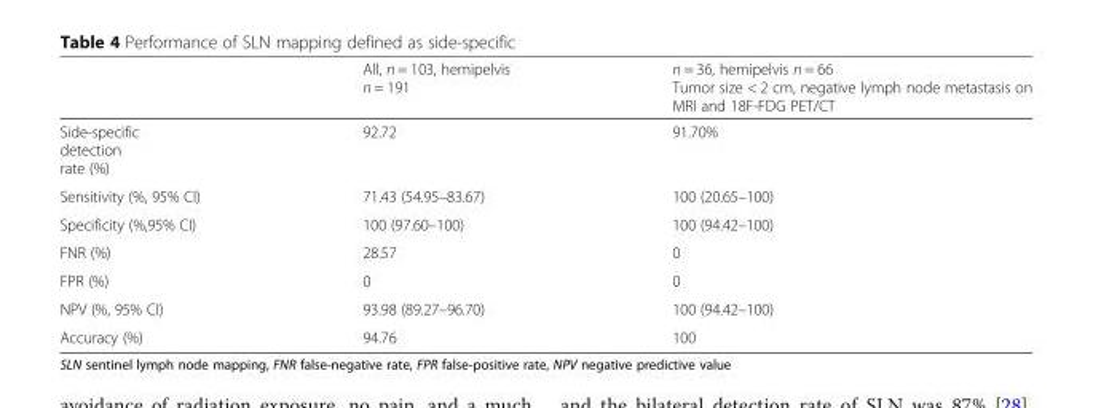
<table><thead><tr><td></td><td>All, n = 103, hemipelvis n = 191</td><td>n = 36, hemipelvis n = 66 Tumor size &lt; 2 cm, negative lymph node metastasis on MRI and 18F-FDG PET/CT</td></tr></thead><tbody><tr><td>Side-specific detection rate (%)</td><td>92.72</td><td>91.70%</td></tr><tr><td>Sensitivity (%, 95% CI)</td><td>71.43 (54.95–83.67)</td><td>100 (20.65–100)</td></tr><tr><td>Specificity (%,95% CI)</td><td>100 (97.60–100)</td><td>100 (94.42–100)</td></tr><tr><td>FNR (%)</td><td>28.57</td><td>0</td></tr><tr><td>FPR (%)</td><td>0</td><td>0</td></tr><tr><td>NPV (%, 95% CI)</td><td>93.98 (89.27–96.70)</td><td>100 (94.42–100)</td></tr><tr><td>Accuracy (%)</td><td>94.76</td><td>100</td></tr></tbody></table>